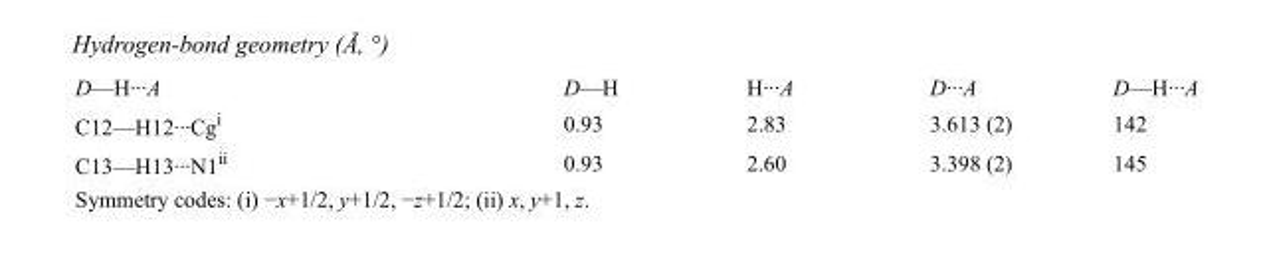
<table><tbody><tr><td>D—H···A</td><td>D—H</td><td>H···A</td><td>D···A</td><td>D—H···A</td></tr><tr><td>C12—H12···Cg<sup>i</sup></td><td>0.93</td><td>2.83</td><td>3.613 (2)</td><td>142</td></tr><tr><td>C13—H13···N1<sup>ii</sup></td><td>0.93</td><td>2.60</td><td>3.398 (2)</td><td>145</td></tr></tbody></table>